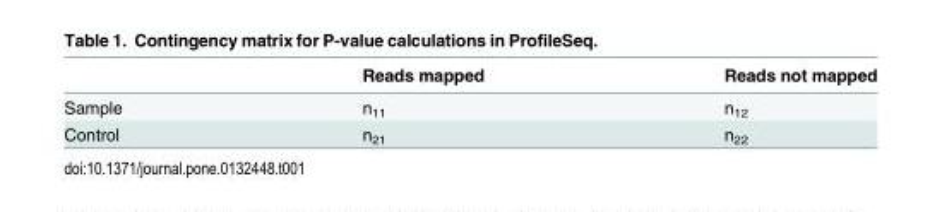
<table><thead><tr><td></td><td>Reads mapped</td><td>Reads not mapped</td></tr></thead><tbody><tr><td>Sample</td><td>n<sub>11</sub></td><td>n<sub>12</sub></td></tr><tr><td>Control</td><td>n<sub>21</sub></td><td>n<sub>22</sub></td></tr></tbody></table>